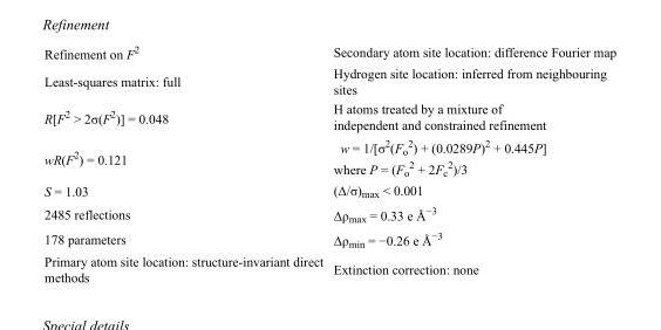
<table><tbody><tr><td>Refinement on F<sup>2</sup></td><td>Secondary atom site location: difference Fourier map</td></tr><tr><td>Least-squares matrix: full</td><td>Hydrogen site location: inferred from neighbouring sites</td></tr><tr><td>R[F<sup>2</sup> &gt; 2σ(F<sup>2</sup>)] = 0.048</td><td>H atoms treated by a mixture of independent and constrained refinement</td></tr><tr><td>wR(F<sup>2</sup>) = 0.121</td><td>w = 1/[σ<sup>2</sup>(F<sub>o</sub> <sup>2</sup>) + (0.0289P)<sup>2</sup> + 0.445P] where P = (F<sub>o</sub> <sup>2</sup> + 2F<sub>c</sub> <sup>2</sup>)/3</td></tr><tr><td>S = 1.03</td><td>(Δ/σ)<sub>max</sub> &lt; 0.001</td></tr><tr><td>2485 reflections</td><td>Δρ<sub>max</sub> = 0.33 e Å<sup>−3</sup></td></tr><tr><td>178 parameters</td><td>Δρ<sub>min</sub> = −0.26 e Å<sup>−3</sup></td></tr><tr><td>Primary atom site location: structure-invariant direct methods</td><td>Extinction correction: none</td></tr></tbody></table>